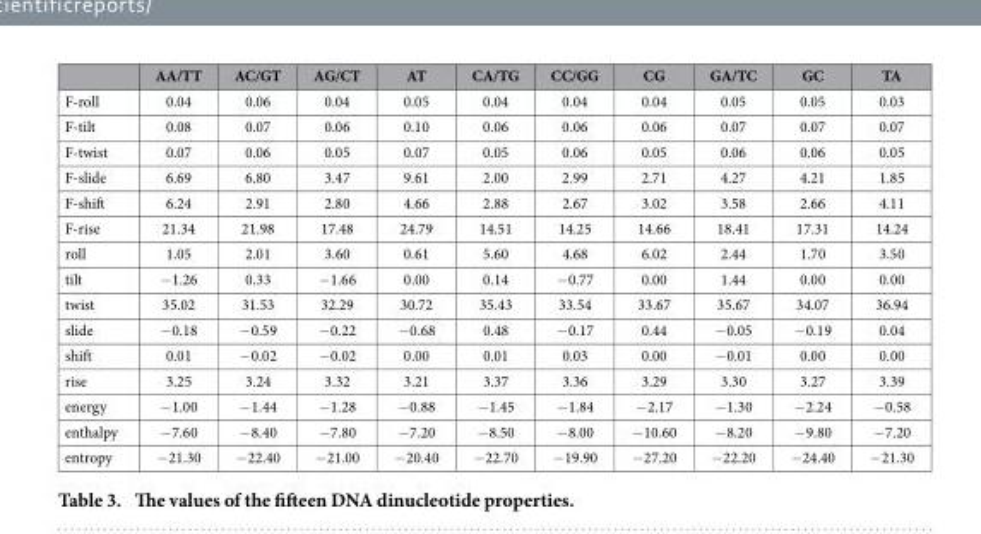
<table><thead><tr><td></td><td>AA/TT</td><td>AC/GT</td><td>AG/CT</td><td>AT</td><td>CA/TG</td><td>CC/GG</td><td>CG</td><td>GA/TC</td><td>GC</td><td>TA</td></tr></thead><tbody><tr><td>F-roll</td><td>0.04</td><td>0.06</td><td>0.04</td><td>0.05</td><td>0.04</td><td>0.04</td><td>0.04</td><td>0.05</td><td>0.05</td><td>0.03</td></tr><tr><td>F-tilt</td><td>0.08</td><td>0.07</td><td>0.06</td><td>0.10</td><td>0.06</td><td>0.06</td><td>0.06</td><td>0.07</td><td>0.07</td><td>0.07</td></tr><tr><td>F-twist</td><td>0.07</td><td>0.06</td><td>0.05</td><td>0.07</td><td>0.05</td><td>0.06</td><td>0.05</td><td>0.06</td><td>0.06</td><td>0.05</td></tr><tr><td>F-slide</td><td>6.69</td><td>6.80</td><td>3.47</td><td>9.61</td><td>2.00</td><td>2.99</td><td>2.71</td><td>4.27</td><td>4.21</td><td>1.85</td></tr><tr><td>F-shift</td><td>6.24</td><td>2.91</td><td>2.80</td><td>4.66</td><td>2.88</td><td>2.67</td><td>3.02</td><td>3.58</td><td>2.66</td><td>4.11</td></tr><tr><td>F-rise</td><td>21.34</td><td>21.98</td><td>17.48</td><td>24.79</td><td>14.51</td><td>14.25</td><td>14.66</td><td>18.41</td><td>17.31</td><td>14.24</td></tr><tr><td>roll</td><td>1.05</td><td>2.01</td><td>3.60</td><td>0.61</td><td>5.60</td><td>4.68</td><td>6.02</td><td>2.44</td><td>1.70</td><td>3.50</td></tr><tr><td>tilt</td><td>− 1.26</td><td>0.33</td><td>− 1.66</td><td>0.00</td><td>0.14</td><td>− 0.77</td><td>0.00</td><td>1.44</td><td>0.00</td><td>0.00</td></tr><tr><td>twist</td><td>35.02</td><td>31.53</td><td>32.29</td><td>30.72</td><td>35.43</td><td>33.54</td><td>33.67</td><td>35.67</td><td>34.07</td><td>36.94</td></tr><tr><td>slide</td><td>− 0.18</td><td>− 0.59</td><td>− 0.22</td><td>− 0.68</td><td>0.48</td><td>− 0.17</td><td>0.44</td><td>− 0.05</td><td>− 0.19</td><td>0.04</td></tr><tr><td>shift</td><td>0.01</td><td>− 0.02</td><td>− 0.02</td><td>0.00</td><td>0.01</td><td>0.03</td><td>0.00</td><td>− 0.01</td><td>0.00</td><td>0.00</td></tr><tr><td>rise</td><td>3.25</td><td>3.24</td><td>3.32</td><td>3.21</td><td>3.37</td><td>3.36</td><td>3.29</td><td>3.30</td><td>3.27</td><td>3.39</td></tr><tr><td>energy</td><td>− 1.00</td><td>− 1.44</td><td>− 1.28</td><td>− 0.88</td><td>− 1.45</td><td>− 1.84</td><td>− 2.17</td><td>− 1.30</td><td>− 2.24</td><td>− 0.58</td></tr><tr><td>enthalpy</td><td>− 7.60</td><td>− 8.40</td><td>− 7.80</td><td>− 7.20</td><td>− 8.50</td><td>− 8.00</td><td>− 10.60</td><td>− 8.20</td><td>− 9.80</td><td>− 7.20</td></tr><tr><td>entropy</td><td>− 21.30</td><td>− 22.40</td><td>− 21.00</td><td>− 20.40</td><td>− 22.70</td><td>− 19.90</td><td>− 27.20</td><td>− 22.20</td><td>− 24.40</td><td>− 21.30</td></tr></tbody></table>